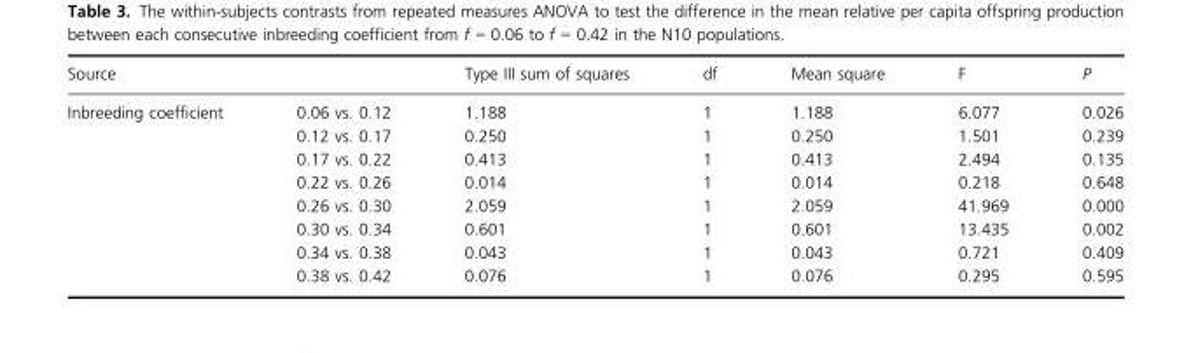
<table><thead><tr><td>Source</td><td></td><td>Type III sum of squares</td><td>df</td><td>Mean square</td><td>F</td><td>P</td></tr></thead><tbody><tr><td rowspan="8">Inbreeding coefficient</td><td>0.06 vs. 0.12</td><td>1.188</td><td>1</td><td>1.188</td><td>6.077</td><td>0.026</td></tr><tr><td>0.12 vs. 0.17</td><td>0.250</td><td>1</td><td>0.250</td><td>1.501</td><td>0.239</td></tr><tr><td>0.17 vs. 0.22</td><td>0.413</td><td>1</td><td>0.413</td><td>2.494</td><td>0.135</td></tr><tr><td>0.22 vs. 0.26</td><td>0.014</td><td>1</td><td>0.014</td><td>0.218</td><td>0.648</td></tr><tr><td>0.26 vs. 0.30</td><td>2.059</td><td>1</td><td>2.059</td><td>41.969</td><td>0.000</td></tr><tr><td>0.30 vs. 0.34</td><td>0.601</td><td>1</td><td>0.601</td><td>13.435</td><td>0.002</td></tr><tr><td>0.34 vs. 0.38</td><td>0.043</td><td>1</td><td>0.043</td><td>0.721</td><td>0.409</td></tr><tr><td>0.38 vs. 0.42</td><td>0.076</td><td>1</td><td>0.076</td><td>0.295</td><td>0.595</td></tr></tbody></table>